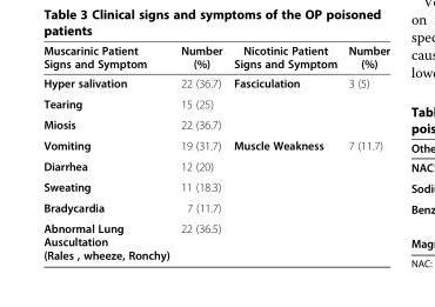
<table><thead><tr><td>Muscarinic Patient Signs and Symptom</td><td>Number (%)</td><td>Nicotinic Patient Signs and Symptom</td><td>Number (%)</td></tr></thead><tbody><tr><td>Hyper salivation</td><td>22 (36.7)</td><td>Fasciculation</td><td>3 (5)</td></tr><tr><td>Tearing</td><td>15 (25)</td><td></td><td></td></tr><tr><td>Miosis</td><td>22 (36.7)</td><td></td><td></td></tr><tr><td>Vomiting</td><td>19 (31.7)</td><td>Muscle Weakness</td><td>7 (11.7)</td></tr><tr><td>Diarrhea</td><td>12 (20)</td><td></td><td></td></tr><tr><td>Sweating</td><td>11 (18.3)</td><td></td><td></td></tr><tr><td>Bradycardia</td><td>7 (11.7)</td><td></td><td></td></tr><tr><td>Abnormal Lung Auscultation (Rales , wheeze, Ronchy)</td><td>22 (36.5)</td><td></td><td></td></tr></tbody></table>